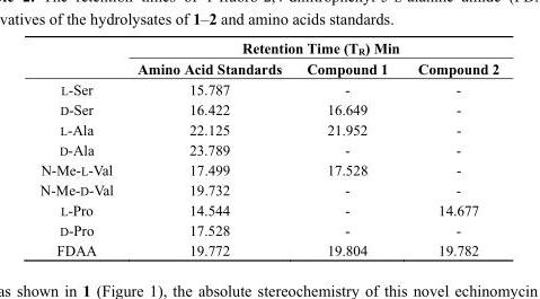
<table><thead><tr><td rowspan="2"></td><td colspan="3">Retention Time (T<sub>R</sub>) Min</td></tr><tr><td>Amino Acid Standards</td><td>Compound 1</td><td>Compound 2</td></tr></thead><tbody><tr><td>L-Ser</td><td>15.787</td><td>-</td><td>-</td></tr><tr><td>D-Ser</td><td>16.422</td><td>16.649</td><td>-</td></tr><tr><td>L-Ala</td><td>22.125</td><td>21.952</td><td>-</td></tr><tr><td>D-Ala</td><td>23.789</td><td>-</td><td>-</td></tr><tr><td>N-Me-L-Val</td><td>17.499</td><td>17.528</td><td>-</td></tr><tr><td>N-Me-D-Val</td><td>19.732</td><td>-</td><td>-</td></tr><tr><td>L-Pro</td><td>14.544</td><td>-</td><td>14.677</td></tr><tr><td>D-Pro</td><td>17.528</td><td>-</td><td>-</td></tr><tr><td>FDAA</td><td>19.772</td><td>19.804</td><td>19.782</td></tr></tbody></table>